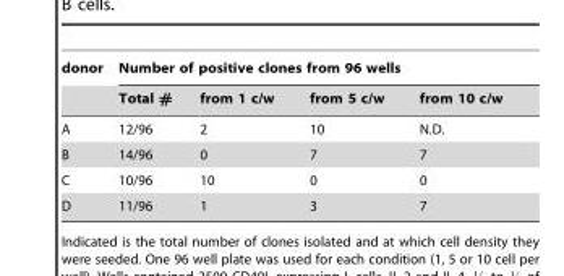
<table><thead><tr><td rowspan="2">donor</td><td colspan="4">Number of positive clones from 96 wells</td></tr><tr><td>Total #</td><td>from 1 c/w</td><td>from 5 c/w</td><td>from 10 c/w</td></tr></thead><tbody><tr><td>A</td><td>12/96</td><td>2</td><td>10</td><td>N.D.</td></tr><tr><td>B</td><td>14/96</td><td>0</td><td>7</td><td>7</td></tr><tr><td>C</td><td>10/96</td><td>10</td><td>0</td><td>0</td></tr><tr><td>D</td><td>11/96</td><td>1</td><td>3</td><td>7</td></tr></tbody></table>